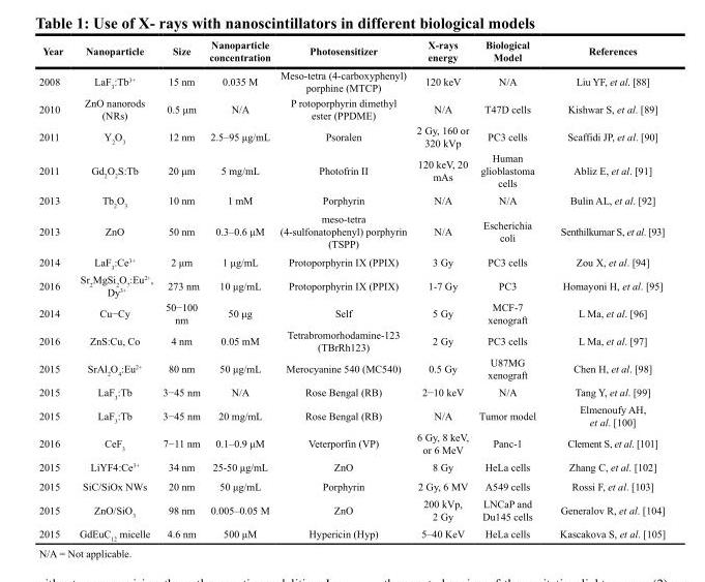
<table><thead><tr><td>Year</td><td>Nanoparticle</td><td>Size</td><td>Nanoparticle concentration</td><td>Photosensitizer</td><td>X-rays energy</td><td>Biological Model</td><td>References</td></tr></thead><tbody><tr><td>2008</td><td>LaF<sub>3</sub>:Tb<sup>3+</sup></td><td>15 nm</td><td>0.035 M</td><td>Meso-tetra (4-carboxyphenyl) porphine (MTCP)</td><td>120 keV</td><td>N/A</td><td>Liu YF, et al. [88]</td></tr><tr><td>2010</td><td>ZnO nanorods (NRs)</td><td>0.5 μm</td><td>N/A</td><td>P rotoporphyrin dimethyl ester (PPDME)</td><td>N/A</td><td>T47D cells</td><td>Kishwar S, et al. [89]</td></tr><tr><td>2011</td><td>Y<sub>2</sub>O<sub>3</sub></td><td>12 nm</td><td>2.5–95 μg/mL</td><td>Psoralen</td><td>2 Gy, 160 or 320 kVp</td><td>PC3 cells</td><td>Scaffidi JP, et al. [90]</td></tr><tr><td>2011</td><td>Gd<sub>2</sub>O<sub>2</sub>S:Tb</td><td>20 μm</td><td>5 mg/mL</td><td>Photofrin II</td><td>120 keV, 20 mAs</td><td>Human glioblastoma cells</td><td>Abliz E, et al. [91]</td></tr><tr><td>2013</td><td>Tb<sub>2</sub>O<sub>3</sub></td><td>10 nm</td><td>1 mM</td><td>Porphyrin</td><td>N/A</td><td>N/A</td><td>Bulin AL, et al. [92]</td></tr><tr><td>2013</td><td>ZnO</td><td>50 nm</td><td>0.3–0.6 μM</td><td>meso-tetra (4-sulfonatophenyl) porphyrin (TSPP)</td><td>N/A</td><td>Escherichia coli</td><td>Senthilkumar S, et al. [93]</td></tr><tr><td>2014</td><td>LaF<sub>3</sub>:Ce<sup>3+</sup></td><td>2 μm</td><td>1 μg/mL</td><td>Protoporphyrin IX (PPIX)</td><td>3 Gy</td><td>PC3 cells</td><td>Zou X, et al. [94]</td></tr><tr><td>2016</td><td>Sr<sub>2</sub>MgSi<sub>2</sub>O<sub>7</sub>:Eu<sup>2+</sup>, Dy<sup>3+</sup></td><td>273 nm</td><td>10 μg/mL</td><td>Protoporphyrin IX (PPIX)</td><td>1-7 Gy</td><td>PC3</td><td>Homayoni H, et al. [95]</td></tr><tr><td>2014</td><td>Cu−Cy</td><td>50−100 nm</td><td>50 μg</td><td>Self</td><td>5 Gy</td><td>MCF-7 xenograft</td><td>L Ma, et al. [96]</td></tr><tr><td>2016</td><td>ZnS:Cu, Co</td><td>4 nm</td><td>0.05 mM</td><td>Tetrabromorhodamine-123 (TBrRh123)</td><td>2 Gy</td><td>PC3 cells</td><td>L Ma, et al. [97]</td></tr><tr><td>2015</td><td>SrAl<sub>2</sub>O<sub>4</sub>:Eu<sup>2+</sup></td><td>80 nm</td><td>50 μg/mL</td><td>Merocyanine 540 (MC540)</td><td>0.5 Gy</td><td>U87MG xenograft</td><td>Chen H, et al. [98]</td></tr><tr><td>2015</td><td>LaF<sub>3</sub>:Tb</td><td>3−45 nm</td><td>N/A</td><td>Rose Bengal (RB)</td><td>2−10 keV</td><td>N/A</td><td>Tang Y, et al. [99]</td></tr><tr><td>2015</td><td>LaF<sub>3</sub>:Tb</td><td>3−45 nm</td><td>20 mg/mL</td><td>Rose Bengal (RB)</td><td>N/A</td><td>Tumor model</td><td>Elmenoufy AH, et al. [100]</td></tr><tr><td>2016</td><td>CeF<sub>3</sub></td><td>7−11 nm</td><td>0.1–0.9 μM</td><td>Veterporfin (VP)</td><td>6 Gy, 8 keV, or 6 MeV</td><td>Panc-1</td><td>Clement S, et al. [101]</td></tr><tr><td>2015</td><td>LiYF4:Ce<sup>3+</sup></td><td>34 nm</td><td>25-50 μg/mL</td><td>ZnO</td><td>8 Gy</td><td>HeLa cells</td><td>Zhang C, et al. [102]</td></tr><tr><td>2015</td><td>SiC/SiOx NWs</td><td>20 nm</td><td>50 μg/mL</td><td>Porphyrin</td><td>2 Gy, 6 MV</td><td>A549 cells</td><td>Rossi F, et al. [103]</td></tr><tr><td>2015</td><td>ZnO/SiO<sub>3</sub></td><td>98 nm</td><td>0.005–0.05 M</td><td>ZnO</td><td>200 kVp, 2 Gy</td><td>LNCaP and Du145 cells</td><td>Generalov R, et al. [104]</td></tr><tr><td>2015</td><td>GdEuC<sub>12</sub> micelle</td><td>4.6 nm</td><td>500 μM</td><td>Hypericin (Hyp)</td><td>5–40 KeV</td><td>HeLa cells</td><td>Kascakova S, et al. [105]</td></tr></tbody></table>